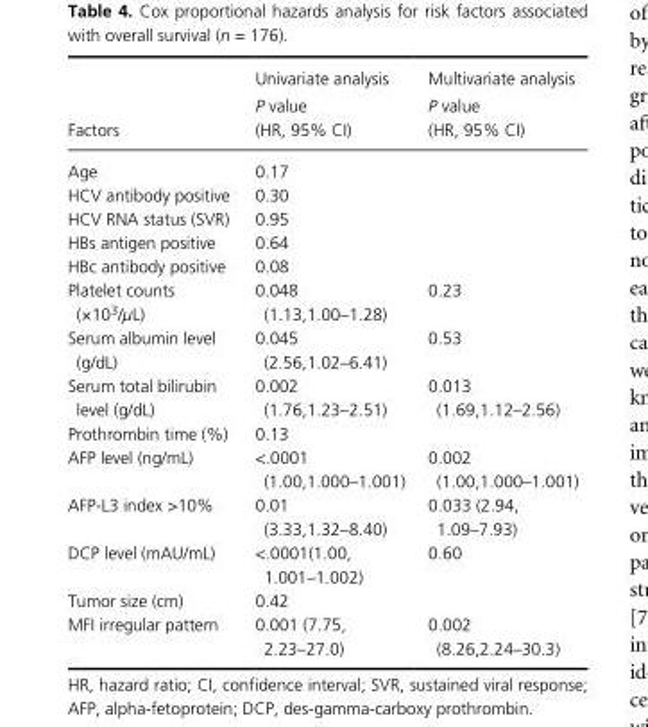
<table><thead><tr><td rowspan="2">Factors</td><td rowspan="2">Univariate analysis P value (HR, 95% CI)</td><td rowspan="2">Multivariate analysis P value (HR, 95% CI)</td></tr><tr></tr></thead><tbody><tr><td>Age</td><td>0.17</td><td></td></tr><tr><td>HCV antibody positive</td><td>0.30</td><td></td></tr><tr><td>HCV RNA status (SVR)</td><td>0.95</td><td></td></tr><tr><td>HBs antigen positive</td><td>0.64</td><td></td></tr><tr><td>HBc antibody positive</td><td>0.08</td><td></td></tr><tr><td>Platelet counts (×10<sup>3</sup>/μL)</td><td>0.048 (1.13,1.00–1.28)</td><td>0.23</td></tr><tr><td>Serum albumin level (g/dL)</td><td>0.045 (2.56,1.02–6.41)</td><td>0.53</td></tr><tr><td>Serum total bilirubin level (g/dL)</td><td>0.002 (1.76,1.23–2.51)</td><td>0.013 (1.69,1.12–2.56)</td></tr><tr><td>Prothrombin time (%)</td><td>0.13</td><td></td></tr><tr><td>AFP level (ng/mL)</td><td>&lt;.0001 (1.00,1.000–1.001)</td><td>0.002 (1.00,1.000–1.001)</td></tr><tr><td>AFP- L3 index &gt;10%</td><td>0.01 (3.33,1.32–8.40)</td><td>0.033 (2.94, 1.09–7.93)</td></tr><tr><td>DCP level (mAU/mL)</td><td>&lt;.0001(1.00, 1.001–1.002)</td><td>0.60</td></tr><tr><td>Tumor size (cm)</td><td>0.42</td><td></td></tr><tr><td>MFI irregular pattern</td><td>0.001 (7.75, 2.23–27.0)</td><td>0.002 (8.26,2.24–30.3)</td></tr></tbody></table>